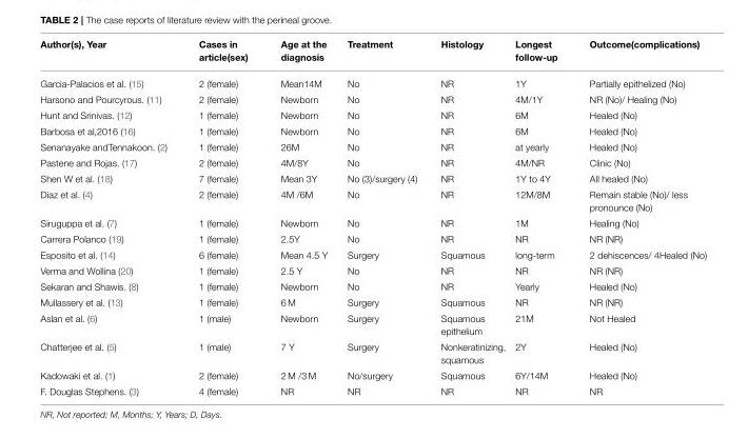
<table><thead><tr><td>Author(s), Year</td><td>Cases in article(sex)</td><td>Age at the diagnosis</td><td>Treatment</td><td>Histology</td><td>Longest follow-up</td><td>Outcome(complications)</td></tr></thead><tbody><tr><td>Garcia-Palacios et al. (15)</td><td>2 (female)</td><td>Mean14M</td><td>No</td><td>NR</td><td>1Y</td><td>Partially epithelized (No)</td></tr><tr><td>Harsono and Pourcyrous. (11)</td><td>2 (female)</td><td>Newborn</td><td>No</td><td>NR</td><td>4M/1Y</td><td>NR (No)/ Healing (No)</td></tr><tr><td>Hunt and Srinivas. (12)</td><td>1 (female)</td><td>Newborn</td><td>No</td><td>NR</td><td>6M</td><td>Healed (No)</td></tr><tr><td>Barbosa et al,2016 (16)</td><td>1 (female)</td><td>Newborn</td><td>No</td><td>NR</td><td>6M</td><td>Healed (No)</td></tr><tr><td>Senanayake andTennakoon. (2)</td><td>1 (female)</td><td>26M</td><td>No</td><td>NR</td><td>at yearly</td><td>Healed (No)</td></tr><tr><td>Pastene and Rojas. (17)</td><td>2 (female)</td><td>4M/8Y</td><td>No</td><td>NR</td><td>4M/NR</td><td>Clinic (No)</td></tr><tr><td>Shen W et al. (18)</td><td>7 (female)</td><td>Mean 3Y</td><td>No (3)/surgery (4)</td><td>NR</td><td>1Y to 4Y</td><td>All healed (No)</td></tr><tr><td>Diaz et al. (4)</td><td>2 (female)</td><td>4M /6M</td><td>No</td><td>NR</td><td>12M/8M</td><td>Remain stable (No)/ less pronounce (No)</td></tr><tr><td>Siruguppa et al. (7)</td><td>1 (female)</td><td>Newborn</td><td>No</td><td>NR</td><td>1M</td><td>Healing (No)</td></tr><tr><td>Carrera Polanco (19)</td><td>1 (female)</td><td>2.5Y</td><td>No</td><td>NR</td><td>NR</td><td>NR (NR)</td></tr><tr><td>Esposito et al. (14)</td><td>6 (female)</td><td>Mean 4.5 Y</td><td>Surgery</td><td>Squamous</td><td>long-term</td><td>2 dehiscences/ 4Healed (No)</td></tr><tr><td>Verma and Wollina (20)</td><td>1 (female)</td><td>2.5 Y</td><td>No</td><td>NR</td><td>NR</td><td>NR (NR)</td></tr><tr><td>Sekaran and Shawis. (8)</td><td>1 (female)</td><td>Newborn</td><td>No</td><td>NR</td><td>Yearly</td><td>Healed (No)</td></tr><tr><td>Mullassery et al. (13)</td><td>1 (female)</td><td>6 M</td><td>Surgery</td><td>Squamous</td><td>NR</td><td>NR (NR)</td></tr><tr><td>Aslan et al. (6)</td><td>1 (male)</td><td>Newborn</td><td>Surgery</td><td>Squamous epithelium</td><td>21M</td><td>Not Healed</td></tr><tr><td>Chatterjee et al. (5)</td><td>1 (male)</td><td>7 Y</td><td>Surgery</td><td>Nonkeratinizing, squamous</td><td>2Y</td><td>Healed (No)</td></tr><tr><td>Kadowaki et al. (1)</td><td>2 (female)</td><td>2 M /3 M</td><td>No/surgery</td><td>Squamous</td><td>6Y/14M</td><td>Healed (No)</td></tr><tr><td>F. Douglas Stephens. (3)</td><td>4 (female)</td><td>NR</td><td>NR</td><td>NR</td><td>NR</td><td>NR</td></tr></tbody></table>